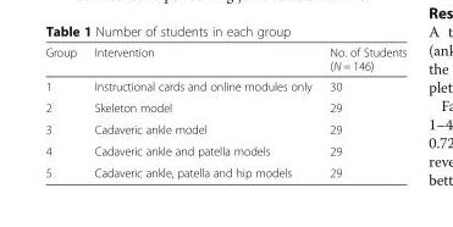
<table><thead><tr><td>Group</td><td>Intervention</td><td>No. of Students (N = 146)</td></tr></thead><tbody><tr><td>1</td><td>Instructional cards and online modules only</td><td>30</td></tr><tr><td>2</td><td>Skeleton model</td><td>29</td></tr><tr><td>3</td><td>Cadaveric ankle model</td><td>29</td></tr><tr><td>4</td><td>Cadaveric ankle and patella models</td><td>29</td></tr><tr><td>5</td><td>Cadaveric ankle, patella and hip models</td><td>29</td></tr></tbody></table>